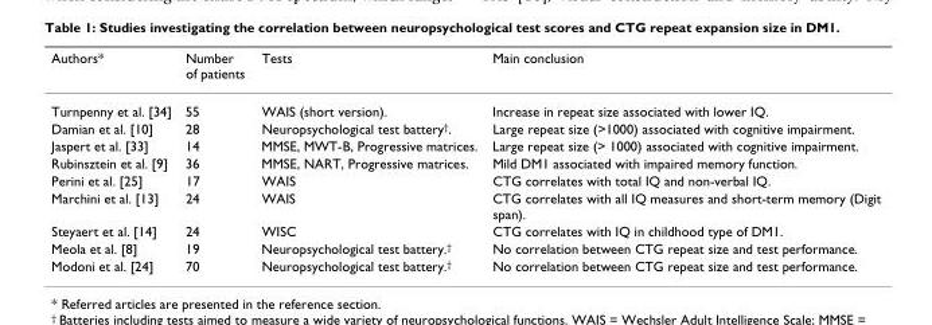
<table><thead><tr><td>Authors*</td><td>Number of patients</td><td>Tests</td><td>Main conclusion</td></tr></thead><tbody><tr><td>Turnpenny et al. [34]</td><td>55</td><td>WAIS (short version).</td><td>Increase in repeat size associated with lower IQ.</td></tr><tr><td>Damian et al. [10]</td><td>28</td><td>Neuropsychological test battery<sup>†</sup>.</td><td>Large repeat size (&gt;1000) associated with cognitive impairment.</td></tr><tr><td>Jaspert et al. [33]</td><td>14</td><td>MMSE, MWT-B, Progressive matrices.</td><td>Large repeat size (&gt; 1000) associated with cognitive impairment.</td></tr><tr><td>Rubinsztein et al. [9]</td><td>36</td><td>MMSE, NART, Progressive matrices.</td><td>Mild DM1 associated with impaired memory function.</td></tr><tr><td>Perini et al. [25]</td><td>17</td><td>WAIS</td><td>CTG correlates with total IQ and non-verbal IQ.</td></tr><tr><td>Marchini et al. [13]</td><td>24</td><td>WAIS</td><td>CTG correlates with all IQ measures and short-term memory (Digit span).</td></tr><tr><td>Steyaert et al. [14]</td><td>24</td><td>WISC</td><td>CTG correlates with IQ in childhood type of DM1.</td></tr><tr><td>Meola et al. [8]</td><td>19</td><td>Neuropsychological test battery.<sup>†</sup></td><td>No correlation between CTG repeat size and test performance.</td></tr><tr><td>Modoni et al. [24]</td><td>70</td><td>Neuropsychological test battery.<sup>†</sup></td><td>No correlation between CTG repeat size and test performance.</td></tr></tbody></table>